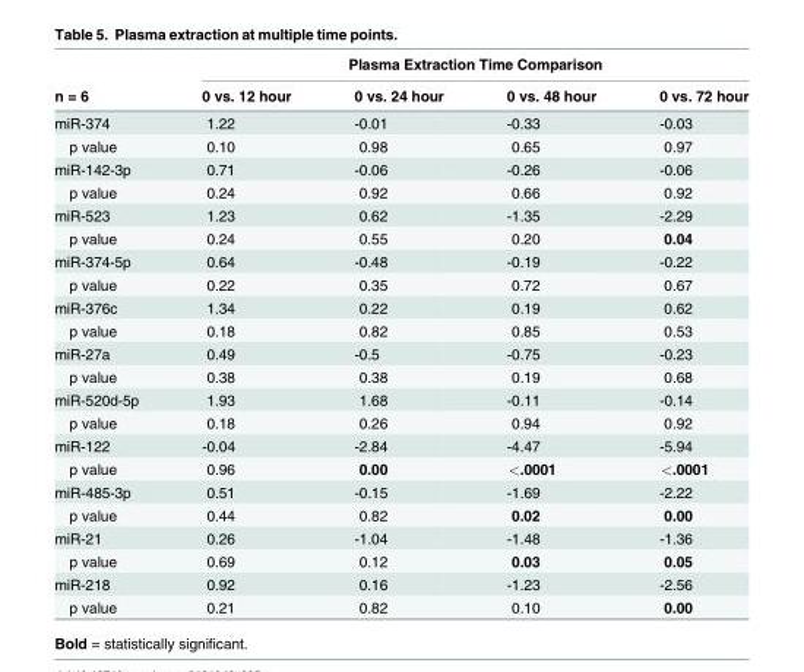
<table><thead><tr><td rowspan="2">n = 6</td><td colspan="4">Plasma Extraction Time Comparison</td></tr><tr><td>0 vs. 12 hour</td><td>0 vs. 24 hour</td><td>0 vs. 48 hour</td><td>0 vs. 72 hour</td></tr></thead><tbody><tr><td>miR-374</td><td>1.22</td><td>-0.01</td><td>-0.33</td><td>-0.03</td></tr><tr><td>p value</td><td>0.10</td><td>0.98</td><td>0.65</td><td>0.97</td></tr><tr><td>miR-142-3p</td><td>0.71</td><td>-0.06</td><td>-0.26</td><td>-0.06</td></tr><tr><td>p value</td><td>0.24</td><td>0.92</td><td>0.66</td><td>0.92</td></tr><tr><td>miR-523</td><td>1.23</td><td>0.62</td><td>-1.35</td><td>-2.29</td></tr><tr><td>p value</td><td>0.24</td><td>0.55</td><td>0.20</td><td>0.04</td></tr><tr><td>miR-374-5p</td><td>0.64</td><td>-0.48</td><td>-0.19</td><td>-0.22</td></tr><tr><td>p value</td><td>0.22</td><td>0.35</td><td>0.72</td><td>0.67</td></tr><tr><td>miR-376c</td><td>1.34</td><td>0.22</td><td>0.19</td><td>0.62</td></tr><tr><td>p value</td><td>0.18</td><td>0.82</td><td>0.85</td><td>0.53</td></tr><tr><td>miR-27a</td><td>0.49</td><td>-0.5</td><td>-0.75</td><td>-0.23</td></tr><tr><td>p value</td><td>0.38</td><td>0.38</td><td>0.19</td><td>0.68</td></tr><tr><td>miR-520d-5p</td><td>1.93</td><td>1.68</td><td>-0.11</td><td>-0.14</td></tr><tr><td>p value</td><td>0.18</td><td>0.26</td><td>0.94</td><td>0.92</td></tr><tr><td>miR-122</td><td>-0.04</td><td>-2.84</td><td>-4.47</td><td>-5.94</td></tr><tr><td>p value</td><td>0.96</td><td>0.00</td><td>&lt;.0001</td><td>&lt;.0001</td></tr><tr><td>miR-485-3p</td><td>0.51</td><td>-0.15</td><td>-1.69</td><td>-2.22</td></tr><tr><td>p value</td><td>0.44</td><td>0.82</td><td>0.02</td><td>0.00</td></tr><tr><td>miR-21</td><td>0.26</td><td>-1.04</td><td>-1.48</td><td>-1.36</td></tr><tr><td>p value</td><td>0.69</td><td>0.12</td><td>0.03</td><td>0.05</td></tr><tr><td>miR-218</td><td>0.92</td><td>0.16</td><td>-1.23</td><td>-2.56</td></tr><tr><td>p value</td><td>0.21</td><td>0.82</td><td>0.10</td><td>0.00</td></tr></tbody></table>